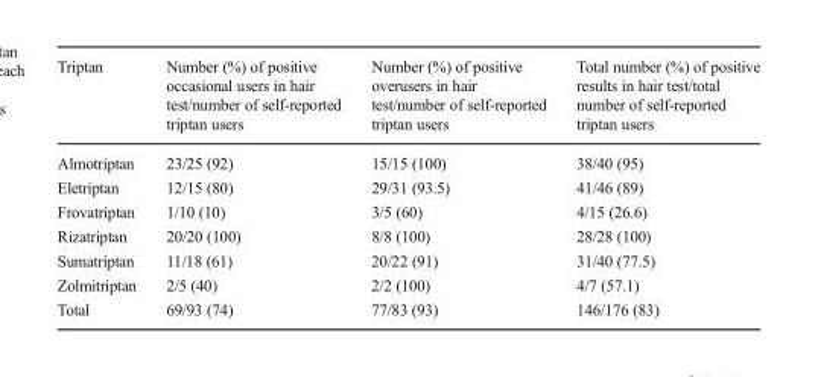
<table><thead><tr><td>Triptan</td><td>Number (%) of positive occasional users in hair test/number of self-reported triptan users</td><td>Number (%) of positive overusers in hair test/number of self-reported triptan users</td><td>Total number (%) of positive results in hair test/total number of self-reported triptan users</td></tr></thead><tbody><tr><td>Almotriptan</td><td>23/25 (92)</td><td>15/15 (100)</td><td>38/40 (95)</td></tr><tr><td>Eletriptan</td><td>12/15 (80)</td><td>29/31 (93.5)</td><td>41/46 (89)</td></tr><tr><td>Frovatriptan</td><td>1/10 (10)</td><td>3/5 (60)</td><td>4/15 (26.6)</td></tr><tr><td>Rizatriptan</td><td>20/20 (100)</td><td>8/8 (100)</td><td>28/28 (100)</td></tr><tr><td>Sumatriptan</td><td>11/18 (61)</td><td>20/22 (91)</td><td>31/40 (77.5)</td></tr><tr><td>Zolmitriptan</td><td>2/5 (40)</td><td>2/2 (100)</td><td>4/7 (57.1)</td></tr><tr><td>Total</td><td>69/93 (74)</td><td>77/83 (93)</td><td>146/176 (83)</td></tr></tbody></table>